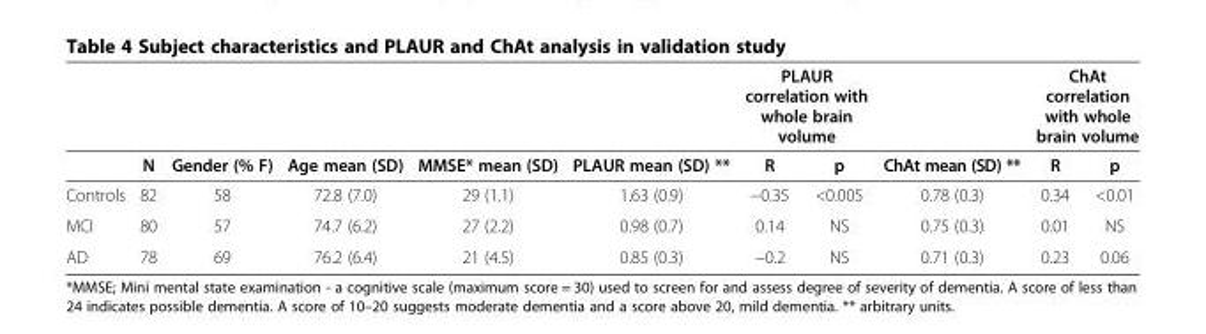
<table><thead><tr><td rowspan="2"></td><td rowspan="2">N</td><td rowspan="2">Gender (% F)</td><td rowspan="2">Age mean (SD)</td><td rowspan="2">MMSE* mean (SD)</td><td rowspan="2">PLAUR mean (SD) **</td><td colspan="2">PLAUR correlation with whole brain volume</td><td rowspan="2">ChAt mean (SD) **</td><td colspan="2">ChAt correlation with whole brain volume</td></tr><tr><td>R</td><td>p</td><td>R</td><td>p</td></tr></thead><tbody><tr><td>Controls</td><td>82</td><td>58</td><td>72.8 (7.0)</td><td>29 (1.1)</td><td>1.63 (0.9)</td><td>−0.35</td><td>&lt;0.005</td><td>0.78 (0.3)</td><td>0.34</td><td>&lt;0.01</td></tr><tr><td>MCI</td><td>80</td><td>57</td><td>74.7 (6.2)</td><td>27 (2.2)</td><td>0.98 (0.7)</td><td>0.14</td><td>NS</td><td>0.75 (0.3)</td><td>0.01</td><td>NS</td></tr><tr><td>AD</td><td>78</td><td>69</td><td>76.2 (6.4)</td><td>21 (4.5)</td><td>0.85 (0.3)</td><td>−0.2</td><td>NS</td><td>0.71 (0.3)</td><td>0.23</td><td>0.06</td></tr></tbody></table>